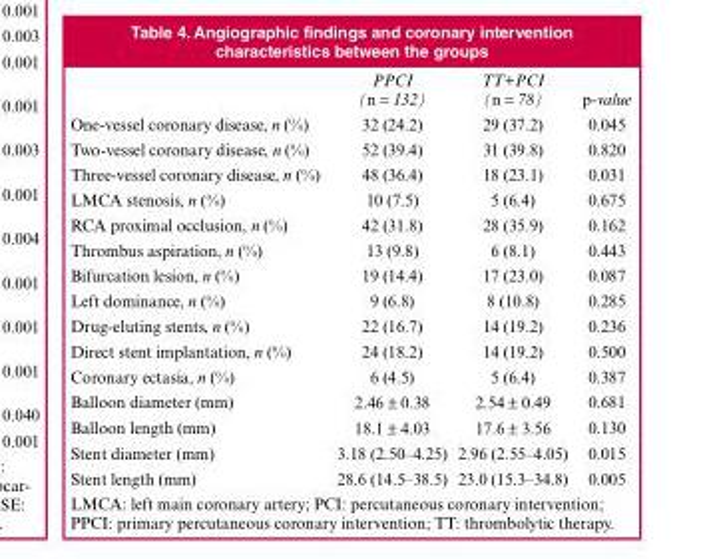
<table><thead><tr><td></td><td>PPCI (n = 132)</td><td>TT+PCI (n = 78)</td><td>p-value</td></tr></thead><tbody><tr><td>One-vessel coronary disease, n (%)</td><td>32 (24.2)</td><td>29 (37.2)</td><td>0.045</td></tr><tr><td>Two-vessel coronary disease, n (%)</td><td>52 (39.4)</td><td>31 (39.8)</td><td>0.820</td></tr><tr><td>Three-vessel coronary disease, n (%)</td><td>48 (36.4)</td><td>18 (23.1)</td><td>0.031</td></tr><tr><td>LMCA stenosis, n (%)</td><td>10 (7.5)</td><td>5 (6.4)</td><td>0.675</td></tr><tr><td>RCA proximal occlusion, n (%)</td><td>42 (31.8)</td><td>28 (35.9)</td><td>0.162</td></tr><tr><td>Thrombus aspiration, n (%)</td><td>13 (9.8)</td><td>6 (8.1)</td><td>0.443</td></tr><tr><td>Bifurcation lesion, n (%)</td><td>19 (14.4)</td><td>17 (23.0)</td><td>0.087</td></tr><tr><td>Left dominance, n (%)</td><td>9 (6.8)</td><td>8 (10.8)</td><td>0.285</td></tr><tr><td>Drug-eluting stents, n (%)</td><td>22 (16.7)</td><td>14 (19.2)</td><td>0.236</td></tr><tr><td>Direct stent implantation, n (%)</td><td>24 (18.2)</td><td>14 (19.2)</td><td>0.500</td></tr><tr><td>Coronary ectasia, n (%)</td><td>6 (4.5)</td><td>5 (6.4)</td><td>0.387</td></tr><tr><td>Balloon diameter (mm)</td><td>2.46 ± 0.38</td><td>2.54 ± 0.49</td><td>0.681</td></tr><tr><td>Balloon length (mm)</td><td>18.1 ± 4.03</td><td>17.6 ± 3.56</td><td>0.130</td></tr><tr><td>Stent diameter (mm)</td><td>3.18 (2.50–4.25)</td><td>2.96 (2.55–4.05)</td><td>0.015</td></tr><tr><td>Stent length (mm)</td><td>28.6 (14.5–38.5)</td><td>23.0 (15.3–34.8)</td><td>0.005</td></tr></tbody></table>